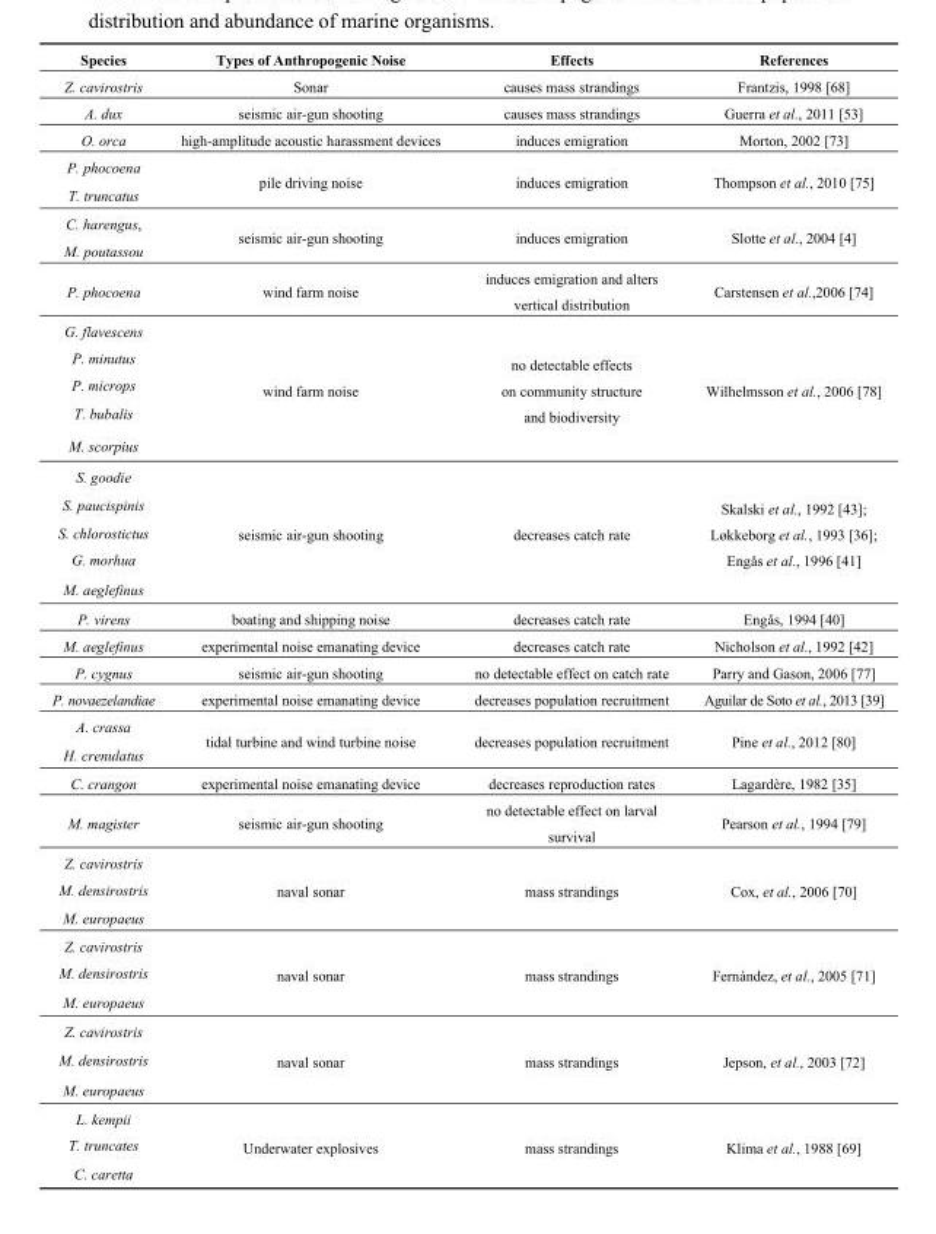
<table><thead><tr><td>Species</td><td>Types of Anthropogenic Noise</td><td>Effects</td><td>References</td></tr></thead><tbody><tr><td>Z. cavirostris</td><td>Sonar</td><td>causes mass strandings</td><td>Frantzis, 1998 [68]</td></tr><tr><td>A. dux</td><td>seismic air-gun shooting</td><td>causes mass strandings</td><td>Guerra et al., 2011 [53]</td></tr><tr><td>O. orca</td><td>high-amplitude acoustic harassment devices</td><td>induces emigration</td><td>Morton, 2002 [73]</td></tr><tr><td>P. phocoena</td><td rowspan="2">pile driving noise</td><td rowspan="2">induces emigration</td><td rowspan="2">Thompson et al., 2010 [75]</td></tr><tr><td>T. truncatus</td></tr><tr><td>C. harengus,</td><td rowspan="2">seismic air-gun shooting</td><td rowspan="2">induces emigration</td><td rowspan="2">Slotte et al., 2004 [4]</td></tr><tr><td>M. poutassou</td></tr><tr><td>P. phocoena</td><td>wind farm noise</td><td>induces emigration and alters vertical distribution</td><td>Carstensen et al.,2006 [74]</td></tr><tr><td>G. flavescens</td><td rowspan="5">wind farm noise</td><td rowspan="5">no detectable effects on community structure and biodiversity</td><td rowspan="5">Wilhelmsson et al., 2006 [78]</td></tr><tr><td>P. minutus</td></tr><tr><td>P. microps</td></tr><tr><td>T. bubalis</td></tr><tr><td>M. scorpius</td></tr><tr><td>S. goodie</td><td rowspan="5">seismic air-gun shooting</td><td rowspan="5">decreases catch rate</td><td rowspan="5">Skalski et al., 1992 [43]; Løkkeborg et al., 1993 [36]; Engås et al., 1996 [41]</td></tr><tr><td>S. paucispinis</td></tr><tr><td>S. chlorostictus</td></tr><tr><td>G. morhua</td></tr><tr><td>M. aeglefinus</td></tr><tr><td>P. virens</td><td>boating and shipping noise</td><td>decreases catch rate</td><td>Engås, 1994 [40]</td></tr><tr><td>M. aeglefinus</td><td>experimental noise emanating device</td><td>decreases catch rate</td><td>Nicholson et al., 1992 [42]</td></tr><tr><td>P. cygnus</td><td>seismic air-gun shooting</td><td>no detectable effect on catch rate</td><td>Parry and Gason, 2006 [77]</td></tr><tr><td>P. novaezelandiae</td><td>experimental noise emanating device</td><td>decreases population recruitment</td><td>Aguilar de Soto et al., 2013 [39]</td></tr><tr><td>A. crassa</td><td rowspan="2">tidal turbine and wind turbine noise</td><td rowspan="2">decreases population recruitment</td><td rowspan="2">Pine et al., 2012 [80]</td></tr><tr><td>H. crenulatus</td></tr><tr><td>C. crangon</td><td>experimental noise emanating device</td><td>decreases reproduction rates</td><td>Lagardère, 1982 [35]</td></tr><tr><td>M. magister</td><td>seismic air-gun shooting</td><td>no detectable effect on larval survival</td><td>Pearson et al., 1994 [79]</td></tr><tr><td>Z. cavirostris</td><td rowspan="3">naval sonar</td><td rowspan="3">mass strandings</td><td rowspan="3">Cox, et al., 2006 [70]</td></tr><tr><td>M. densirostris</td></tr><tr><td>M. europaeus</td></tr><tr><td>Z. cavirostris</td><td rowspan="3">naval sonar</td><td rowspan="3">mass strandings</td><td rowspan="3">Fernández, et al., 2005 [71]</td></tr><tr><td>M. densirostris</td></tr><tr><td>M. europaeus</td></tr><tr><td>Z. cavirostris</td><td rowspan="3">naval sonar</td><td rowspan="3">mass strandings</td><td rowspan="3">Jepson, et al., 2003 [72]</td></tr><tr><td>M. densirostris</td></tr><tr><td>M. europaeus</td></tr><tr><td>L. kempii</td><td rowspan="3">Underwater explosives</td><td rowspan="3">mass strandings</td><td rowspan="3">Klima et al., 1988 [69]</td></tr><tr><td>T. truncates</td></tr><tr><td>C. caretta</td></tr></tbody></table>